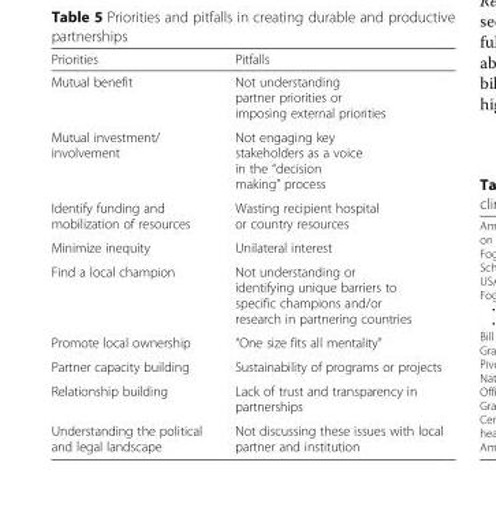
<table><thead><tr><td>Priorities</td><td>Pitfalls</td></tr></thead><tbody><tr><td>Mutual benefit</td><td>Not understanding partner priorities or imposing external priorities</td></tr><tr><td>Mutual investment/ involvement</td><td>Not engaging key stakeholders as a voice in the “decision making” process</td></tr><tr><td>Identify funding and mobilization of resources</td><td>Wasting recipient hospital or country resources</td></tr><tr><td>Minimize inequity</td><td>Unilateral interest</td></tr><tr><td>Find a local champion</td><td>Not understanding or identifying unique barriers to specific champions and/or research in partnering countries</td></tr><tr><td>Promote local ownership</td><td>“One size fits all mentality”</td></tr><tr><td>Partner capacity building</td><td>Sustainability of programs or projects</td></tr><tr><td>Relationship building</td><td>Lack of trust and transparency in partnerships</td></tr><tr><td>Understanding the political and legal landscape</td><td>Not discussing these issues with local partner and institution</td></tr></tbody></table>